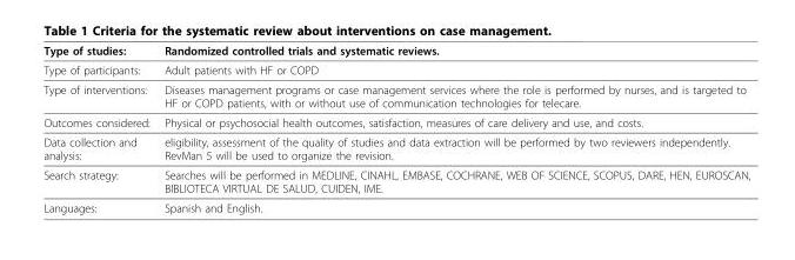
<table><thead><tr><td>Type of studies:</td><td>Randomized controlled trials and systematic reviews.</td></tr></thead><tbody><tr><td>Type of participants:</td><td>Adult patients with HF or COPD</td></tr><tr><td>Type of interventions:</td><td>Diseases management programs or case management services where the role is performed by nurses, and is targeted to HF or COPD patients, with or without use of communication technologies for telecare.</td></tr><tr><td>Outcomes considered:</td><td>Physical or psychosocial health outcomes, satisfaction, measures of care delivery and use, and costs.</td></tr><tr><td>Data collection and analysis:</td><td>eligibility, assessment of the quality of studies and data extraction will be performed by two reviewers independently. RevMan 5 will be used to organize the revision.</td></tr><tr><td>Search strategy:</td><td>Searches will be performed in MEDLINE, CINAHL, EMBASE, COCHRANE, WEB OF SCIENCE, SCOPUS, DARE, HEN, EUROSCAN, BIBLIOTECA VIRTUAL DE SALUD, CUIDEN, IME.</td></tr><tr><td>Languages:</td><td>Spanish and English.</td></tr></tbody></table>